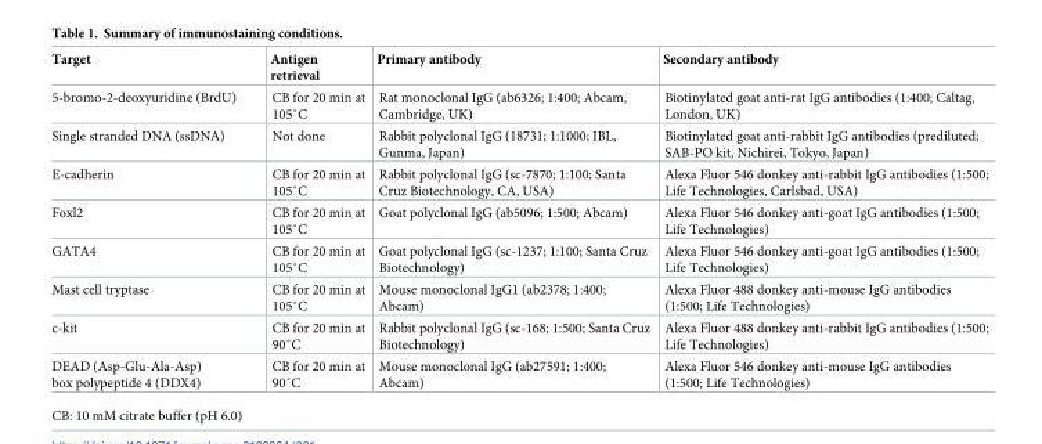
<table><thead><tr><td>Target</td><td>Antigen retrieval</td><td>Primary antibody</td><td>Secondary antibody</td></tr></thead><tbody><tr><td>5-bromo-2-deoxyuridine (BrdU)</td><td>CB for 20 min at 105˚C</td><td>Rat monoclonal IgG (ab6326; 1:400; Abcam, Cambridge, UK)</td><td>Biotinylated goat anti-rat IgG antibodies (1:400; Caltag, London, UK)</td></tr><tr><td>Single stranded DNA (ssDNA)</td><td>Not done</td><td>Rabbit polyclonal IgG (18731; 1:1000; IBL, Gunma, Japan)</td><td>Biotinylated goat anti-rabbit IgG antibodies (prediluted; SAB-PO kit, Nichirei, Tokyo, Japan)</td></tr><tr><td>E-cadherin</td><td>CB for 20 min at 105˚C</td><td>Rabbit polyclonal IgG (sc-7870; 1:100; Santa Cruz Biotechnology, CA, USA)</td><td>Alexa Fluor 546 donkey anti-rabbit IgG antibodies (1:500; Life Technologies, Carlsbad, USA)</td></tr><tr><td>Foxl2</td><td>CB for 20 min at 105˚C</td><td>Goat polyclonal IgG (ab5096; 1:500; Abcam)</td><td>Alexa Fluor 546 donkey anti-goat IgG antibodies (1:500; Life Technologies)</td></tr><tr><td>GATA4</td><td>CB for 20 min at 105˚C</td><td>Goat polyclonal IgG (sc-1237; 1:100; Santa Cruz Biotechnology)</td><td>Alexa Fluor 546 donkey anti-goat IgG antibodies (1:500; Life Technologies)</td></tr><tr><td>Mast cell tryptase</td><td>CB for 20 min at 105˚C</td><td>Mouse monoclonal IgG1 (ab2378; 1:400; Abcam)</td><td>Alexa Fluor 488 donkey anti-mouse IgG antibodies (1:500; Life Technologies)</td></tr><tr><td>c-kit</td><td>CB for 20 min at 90˚C</td><td>Rabbit polyclonal IgG (sc-168; 1:500; Santa Cruz Biotechnology)</td><td>Alexa Fluor 488 donkey anti-rabbit IgG antibodies (1:500; Life Technologies)</td></tr><tr><td>DEAD (Asp-Glu-Ala-Asp) box polypeptide 4 (DDX4)</td><td>CB for 20 min at 90˚C</td><td>Mouse monoclonal IgG (ab27591; 1:400; Abcam)</td><td>Alexa Fluor 546 donkey anti-mouse IgG antibodies (1:500; Life Technologies)</td></tr></tbody></table>